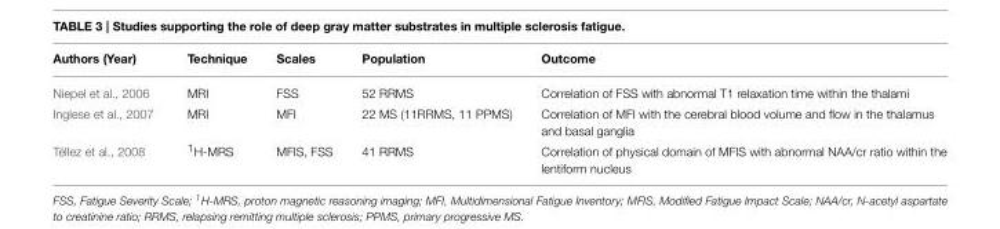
<table><thead><tr><td>Authors (Year)</td><td>Technique</td><td>Scales</td><td>Population</td><td>Outcome</td></tr></thead><tbody><tr><td>Niepel et al., 2006</td><td>MRI</td><td>FSS</td><td>52 RRMS</td><td>Correlation of FSS with abnormal T1 relaxation time within the thalami</td></tr><tr><td>Inglese et al., 2007</td><td>MRI</td><td>MFI</td><td>22 MS (11RRMS, 11 PPMS)</td><td>Correlation of MFI with the cerebral blood volume and flow in the thalamus and basal ganglia</td></tr><tr><td>Téllez et al., 2008</td><td><sup>1</sup>H-MRS</td><td>MFIS, FSS</td><td>41 RRMS</td><td>Correlation of physical domain of MFIS with abnormal NAA/cr ratio within the lentiform nucleus</td></tr></tbody></table>